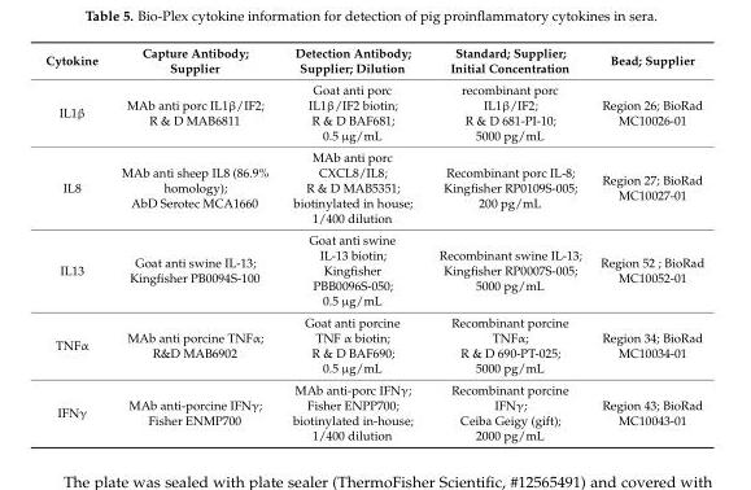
<table><thead><tr><td>Cytokine</td><td>Capture Antibody; Supplier</td><td>Detection Antibody; Supplier; Dilution</td><td>Standard; Supplier; Initial Concentration</td><td>Bead; Supplier</td></tr></thead><tbody><tr><td>IL1β</td><td>MAb anti porc IL1β/IF2; R &amp; D MAB6811</td><td>Goat anti porc IL1β/IF2 biotin; R &amp; D BAF681; 0.5 µg/mL</td><td>recombinant porc IL1β/IF2; R &amp; D 681-PI-10; 5000 pg/mL</td><td>Region 26; BioRad MC10026-01</td></tr><tr><td>IL8</td><td>MAb anti sheep IL8 (86.9% homology); AbD Serotec MCA1660</td><td>MAb anti porc CXCL8/IL8; R &amp; D MAB5351; biotinylated in house; 1/400 dilution</td><td>Recombinant porc IL-8; Kingfisher RP0109S-005; 200 pg/mL</td><td>Region 27; BioRad MC10027-01</td></tr><tr><td>IL13</td><td>Goat anti swine IL-13; Kingfisher PB0094S-100</td><td>Goat anti swine IL-13 biotin; Kingfisher PBB0096S-050; 0.5 µg/mL</td><td>Recombinant swine IL-13; Kingfisher RP0007S-005; 5000 pg/mL</td><td>Region 52 ; BioRad MC10052-01</td></tr><tr><td>TNFα</td><td>MAb anti porcine TNFα; R&amp;D MAB6902</td><td>Goat anti porcine TNF α biotin; R &amp; D BAF690; 0.5 µg/mL</td><td>Recombinant porcine TNFα; R &amp; D 690-PT-025; 5000 pg/mL</td><td>Region 34; BioRad MC10034-01</td></tr><tr><td>IFNγ</td><td>MAb anti-porcine IFNγ; Fisher ENMP700</td><td>MAb anti-porc IFNγ; Fisher ENPP700; biotinylated in-house; 1/400 dilution</td><td>Recombinant porcine IFNγ; Ceiba Geigy (gift); 2000 pg/mL</td><td>Region 43; BioRad MC10043-01</td></tr></tbody></table>